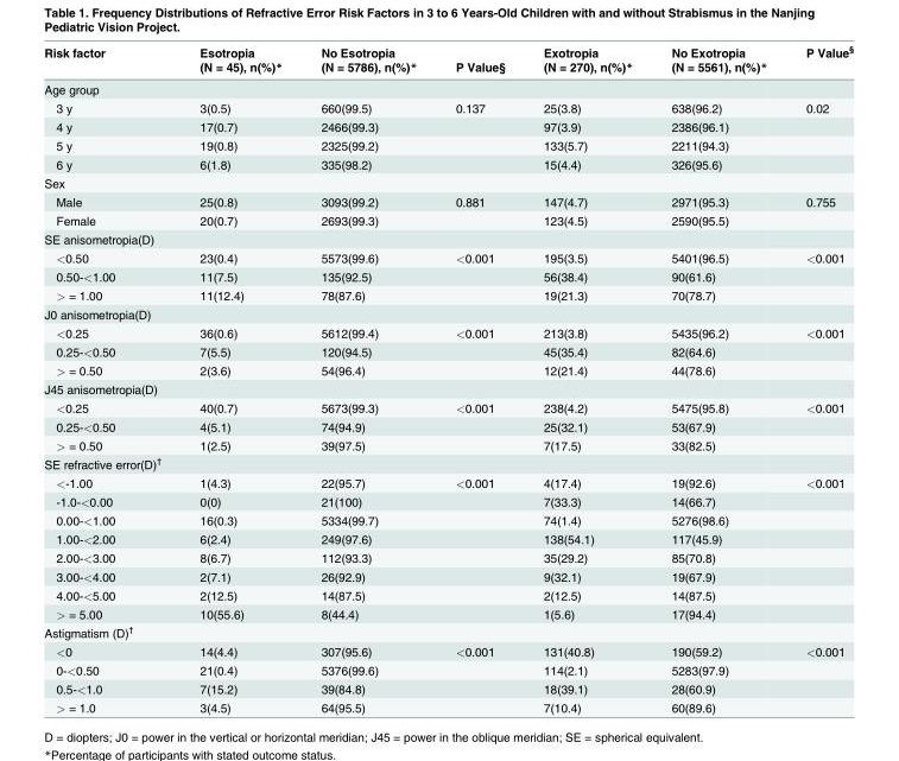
<table><thead><tr><td rowspan="2">Risk factor</td><td rowspan="2">Esotropia (N = 45), n(%)*</td><td rowspan="2">No Esotropia (N = 5786), n(%)*</td><td rowspan="2">P Value§</td><td rowspan="2">Exotropia (N = 270), n(%)*</td><td rowspan="2">No Exotropia (N = 5561), n(%)*</td><td rowspan="2">P Value§</td></tr><tr></tr></thead><tbody><tr><td colspan="7">Age group</td></tr><tr><td>3 y</td><td>3(0.5)</td><td>660(99.5)</td><td>0.137</td><td>25(3.8)</td><td>638(96.2)</td><td>0.02</td></tr><tr><td>4 y</td><td>17(0.7)</td><td>2466(99.3)</td><td></td><td>97(3.9)</td><td>2386(96.1)</td><td></td></tr><tr><td>5 y</td><td>19(0.8)</td><td>2325(99.2)</td><td></td><td>133(5.7)</td><td>2211(94.3)</td><td></td></tr><tr><td>6 y</td><td>6(1.8)</td><td>335(98.2)</td><td></td><td>15(4.4)</td><td>326(95.6)</td><td></td></tr><tr><td colspan="7">Sex</td></tr><tr><td>Male</td><td>25(0.8)</td><td>3093(99.2)</td><td>0.881</td><td>147(4.7)</td><td>2971(95.3)</td><td>0.755</td></tr><tr><td>Female</td><td>20(0.7)</td><td>2693(99.3)</td><td></td><td>123(4.5)</td><td>2590(95.5)</td><td></td></tr><tr><td colspan="7">SE anisometropia(D)</td></tr><tr><td>&lt;0.50</td><td>23(0.4)</td><td>5573(99.6)</td><td>&lt;0.001</td><td>195(3.5)</td><td>5401(96.5)</td><td>&lt;0.001</td></tr><tr><td>0.50-&lt;1.00</td><td>11(7.5)</td><td>135(92.5)</td><td></td><td>56(38.4)</td><td>90(61.6)</td><td></td></tr><tr><td>&gt; = 1.00</td><td>11(12.4)</td><td>78(87.6)</td><td></td><td>19(21.3)</td><td>70(78.7)</td><td></td></tr><tr><td colspan="7">J0 anisometropia(D)</td></tr><tr><td>&lt;0.25</td><td>36(0.6)</td><td>5612(99.4)</td><td>&lt;0.001</td><td>213(3.8)</td><td>5435(96.2)</td><td>&lt;0.001</td></tr><tr><td>0.25-&lt;0.50</td><td>7(5.5)</td><td>120(94.5)</td><td></td><td>45(35.4)</td><td>82(64.6)</td><td></td></tr><tr><td>&gt; = 0.50</td><td>2(3.6)</td><td>54(96.4)</td><td></td><td>12(21.4)</td><td>44(78.6)</td><td></td></tr><tr><td colspan="7">J45 anisometropia(D)</td></tr><tr><td>&lt;0.25</td><td>40(0.7)</td><td>5673(99.3)</td><td>&lt;0.001</td><td>238(4.2)</td><td>5475(95.8)</td><td>&lt;0.001</td></tr><tr><td>0.25-&lt;0.50</td><td>4(5.1)</td><td>74(94.9)</td><td></td><td>25(32.1)</td><td>53(67.9)</td><td></td></tr><tr><td>&gt; = 0.50</td><td>1(2.5)</td><td>39(97.5)</td><td></td><td>7(17.5)</td><td>33(82.5)</td><td></td></tr><tr><td colspan="7">SE refractive error(D)<sup>†</sup></td></tr><tr><td>&lt;-1.00</td><td>1(4.3)</td><td>22(95.7)</td><td>&lt;0.001</td><td>4(17.4)</td><td>19(92.6)</td><td>&lt;0.001</td></tr><tr><td>-1.0-&lt;0.00</td><td>0(0)</td><td>21(100)</td><td></td><td>7(33.3)</td><td>14(66.7)</td><td></td></tr><tr><td>0.00-&lt;1.00</td><td>16(0.3)</td><td>5334(99.7)</td><td></td><td>74(1.4)</td><td>5276(98.6)</td><td></td></tr><tr><td>1.00-&lt;2.00</td><td>6(2.4)</td><td>249(97.6)</td><td></td><td>138(54.1)</td><td>117(45.9)</td><td></td></tr><tr><td>2.00-&lt;3.00</td><td>8(6.7)</td><td>112(93.3)</td><td></td><td>35(29.2)</td><td>85(70.8)</td><td></td></tr><tr><td>3.00-&lt;4.00</td><td>2(7.1)</td><td>26(92.9)</td><td></td><td>9(32.1)</td><td>19(67.9)</td><td></td></tr><tr><td>4.00-&lt;5.00</td><td>2(12.5)</td><td>14(87.5)</td><td></td><td>2(12.5)</td><td>14(87.5)</td><td></td></tr><tr><td>&gt; = 5.00</td><td>10(55.6)</td><td>8(44.4)</td><td></td><td>1(5.6)</td><td>17(94.4)</td><td></td></tr><tr><td colspan="7">Astigmatism (D)<sup>†</sup></td></tr><tr><td>&lt;0</td><td>14(4.4)</td><td>307(95.6)</td><td>&lt;0.001</td><td>131(40.8)</td><td>190(59.2)</td><td>&lt;0.001</td></tr><tr><td>0-&lt;0.50</td><td>21(0.4)</td><td>5376(99.6)</td><td></td><td>114(2.1)</td><td>5283(97.9)</td><td></td></tr><tr><td>0.5-&lt;1.0</td><td>7(15.2)</td><td>39(84.8)</td><td></td><td>18(39.1)</td><td>28(60.9)</td><td></td></tr><tr><td>&gt; = 1.0</td><td>3(4.5)</td><td>64(95.5)</td><td></td><td>7(10.4)</td><td>60(89.6)</td><td></td></tr></tbody></table>